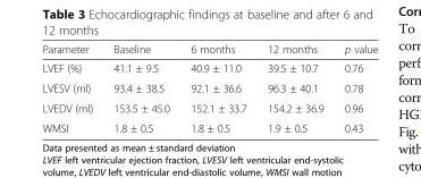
<table><thead><tr><td>Parameter</td><td>Baseline</td><td>6 months</td><td>12 months</td><td>p value</td></tr></thead><tbody><tr><td>LVEF (%)</td><td>41.1 ± 9.5</td><td>40.9 ± 11.0</td><td>39.5 ± 10.7</td><td>0.76</td></tr><tr><td>LVESV (ml)</td><td>93.4 ± 38.5</td><td>92.1 ± 36.6</td><td>96.3 ± 40.1</td><td>0.78</td></tr><tr><td>LVEDV (ml)</td><td>153.5 ± 45.0</td><td>152.1 ± 33.7</td><td>154.2 ± 36.9</td><td>0.96</td></tr><tr><td>WMSI</td><td>1.8 ± 0.5</td><td>1.8 ± 0.5</td><td>1.9 ± 0.5</td><td>0.43</td></tr></tbody></table>